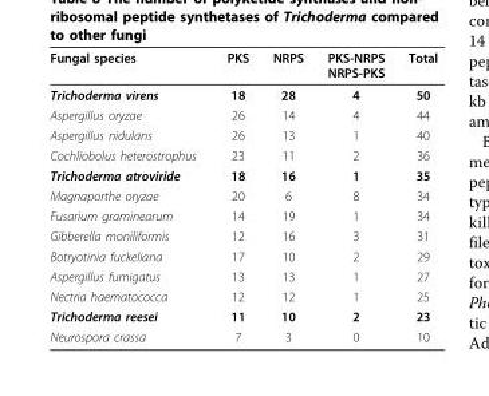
<table><thead><tr><td>Fungal species</td><td>PKS</td><td>NRPS</td><td>PKS-NRPS NRPS-PKS</td><td>Total</td></tr></thead><tbody><tr><td>Trichoderma virens</td><td>18</td><td>28</td><td>4</td><td>50</td></tr><tr><td>Aspergillus oryzae</td><td>26</td><td>14</td><td>4</td><td>44</td></tr><tr><td>Aspergillus nidulans</td><td>26</td><td>13</td><td>1</td><td>40</td></tr><tr><td>Cochliobolus heterostrophus</td><td>23</td><td>11</td><td>2</td><td>36</td></tr><tr><td>Trichoderma atroviride</td><td>18</td><td>16</td><td>1</td><td>35</td></tr><tr><td>Magnaporthe oryzae</td><td>20</td><td>6</td><td>8</td><td>34</td></tr><tr><td>Fusarium graminearum</td><td>14</td><td>19</td><td>1</td><td>34</td></tr><tr><td>Gibberella moniliformis</td><td>12</td><td>16</td><td>3</td><td>31</td></tr><tr><td>Botryotinia fuckeliana</td><td>17</td><td>10</td><td>2</td><td>29</td></tr><tr><td>Aspergillus fumigatus</td><td>13</td><td>13</td><td>1</td><td>27</td></tr><tr><td>Nectria haematococca</td><td>12</td><td>12</td><td>1</td><td>25</td></tr><tr><td>Trichoderma reesei</td><td>11</td><td>10</td><td>2</td><td>23</td></tr><tr><td>Neurospora crassa</td><td>7</td><td>3</td><td>0</td><td>10</td></tr></tbody></table>